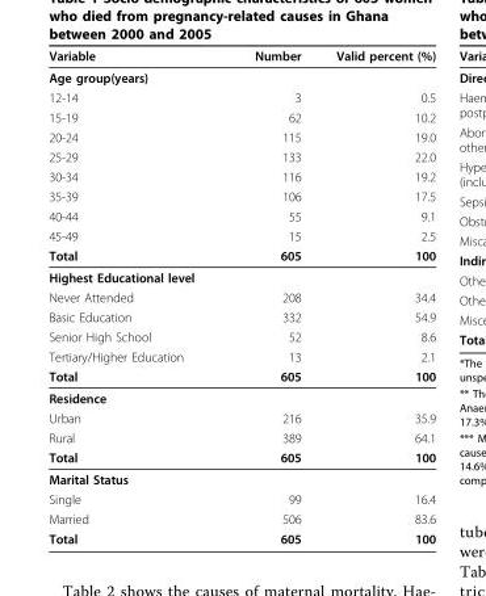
<table><thead><tr><td>Variable</td><td>Number</td><td>Valid percent (%)</td></tr></thead><tbody><tr><td colspan="3">Age group(years)</td></tr><tr><td>12-14</td><td>3</td><td>0.5</td></tr><tr><td>15-19</td><td>62</td><td>10.2</td></tr><tr><td>20-24</td><td>115</td><td>19.0</td></tr><tr><td>25-29</td><td>133</td><td>22.0</td></tr><tr><td>30-34</td><td>116</td><td>19.2</td></tr><tr><td>35-39</td><td>106</td><td>17.5</td></tr><tr><td>40-44</td><td>55</td><td>9.1</td></tr><tr><td>45-49</td><td>15</td><td>2.5</td></tr><tr><td>Total</td><td>605</td><td>100</td></tr><tr><td colspan="3">Highest Educational level</td></tr><tr><td>Never Attended</td><td>208</td><td>34.4</td></tr><tr><td>Basic Education</td><td>332</td><td>54.9</td></tr><tr><td>Senior High School</td><td>52</td><td>8.6</td></tr><tr><td>Tertiary/Higher Education</td><td>13</td><td>2.1</td></tr><tr><td>Total</td><td>605</td><td>100</td></tr><tr><td colspan="3">Residence</td></tr><tr><td>Urban</td><td>216</td><td>35.9</td></tr><tr><td>Rural</td><td>389</td><td>64.1</td></tr><tr><td>Total</td><td>605</td><td>100</td></tr><tr><td colspan="3">Marital Status</td></tr><tr><td>Single</td><td>99</td><td>16.4</td></tr><tr><td>Married</td><td>506</td><td>83.6</td></tr><tr><td>Total</td><td>605</td><td>100</td></tr></tbody></table>